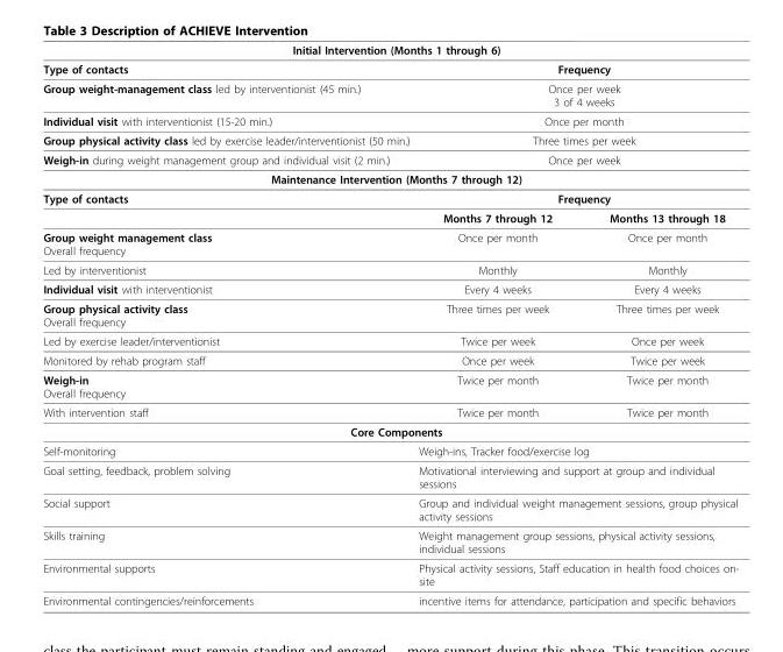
<table><thead><tr><td colspan="3">Initial Intervention (Months 1 through 6)</td></tr></thead><tbody><tr><td>Type of contacts</td><td colspan="2">Frequency</td></tr><tr><td>Group weight-management class led by interventionist (45 min.)</td><td colspan="2">Once per week 3 of 4 weeks</td></tr><tr><td>Individual visit with interventionist (15-20 min.)</td><td colspan="2">Once per month</td></tr><tr><td>Group physical activity class led by exercise leader/interventionist (50 min.)</td><td colspan="2">Three times per week</td></tr><tr><td>Weigh-in during weight management group and individual visit (2 min.)</td><td colspan="2">Once per week</td></tr><tr><td colspan="3">Maintenance Intervention (Months 7 through 12)</td></tr><tr><td rowspan="2">Type of contacts</td><td colspan="2">Frequency</td></tr><tr><td>Months 7 through 12</td><td>Months 13 through 18</td></tr><tr><td>Group weight management class Overall frequency</td><td>Once per month</td><td>Once per month</td></tr><tr><td>Led by interventionist</td><td>Monthly</td><td>Monthly</td></tr><tr><td>Individual visit with interventionist</td><td>Every 4 weeks</td><td>Every 4 weeks</td></tr><tr><td>Group physical activity class Overall frequency</td><td>Three times per week</td><td>Three times per week</td></tr><tr><td>Led by exercise leader/interventionist</td><td>Twice per week</td><td>Once per week</td></tr><tr><td>Monitored by rehab program staff</td><td>Once per week</td><td>Twice per week</td></tr><tr><td>Weigh-in Overall frequency</td><td>Twice per month</td><td>Twice per month</td></tr><tr><td>With intervention staff</td><td>Twice per month</td><td>Twice per month</td></tr><tr><td colspan="3">Core Components</td></tr><tr><td>Self-monitoring</td><td colspan="2">Weigh-ins, Tracker food/exercise log</td></tr><tr><td>Goal setting, feedback, problem solving</td><td colspan="2">Motivational interviewing and support at group and individual sessions</td></tr><tr><td>Social support</td><td colspan="2">Group and individual weight management sessions, group physical activity sessions</td></tr><tr><td>Skills training</td><td colspan="2">Weight management group sessions, physical activity sessions, individual sessions</td></tr><tr><td>Environmental supports</td><td colspan="2">Physical activity sessions, Staff education in health food choices on- site</td></tr><tr><td>Environmental contingencies/reinforcements</td><td colspan="2">incentive items for attendance, participation and specific behaviors</td></tr></tbody></table>